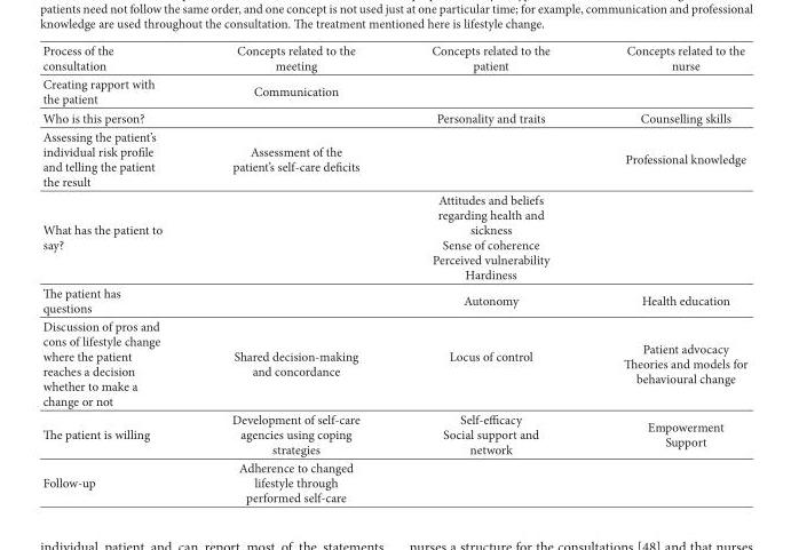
<table><thead><tr><td>Process of the consultation</td><td>Concepts related to the meeting</td><td>Concepts related to the patient</td><td>Concepts related to the nurse</td></tr></thead><tbody><tr><td>Creating rapport with the patient</td><td>Communication</td><td></td><td></td></tr><tr><td>Who is this person?</td><td></td><td>Personality and traits</td><td>Counselling skills</td></tr><tr><td>Assessing the patient’s individual risk profile and telling the patient the result</td><td>Assessment of the patient’s self-care deficits</td><td></td><td>Professional knowledge</td></tr><tr><td>What has the patient to say?</td><td></td><td>Attitudes and beliefs regarding health and sickness Sense of coherence Perceived vulnerability Hardiness</td><td></td></tr><tr><td>The patient has questions</td><td></td><td>Autonomy</td><td>Health education</td></tr><tr><td>Discussion of pros and cons of lifestyle change where the patient reaches a decision whether to make a change or not</td><td>Shared decision-making and concordance</td><td>Locus of control</td><td>Patient advocacy Theories and models for behavioural change</td></tr><tr><td>The patient is willing</td><td>Development of self-care agencies using coping strategies</td><td>Self-efficacy Social support and network</td><td>Empowerment Support</td></tr><tr><td>Follow-up</td><td>Adherence to changed lifestyle through performed self-care</td><td></td><td></td></tr></tbody></table>